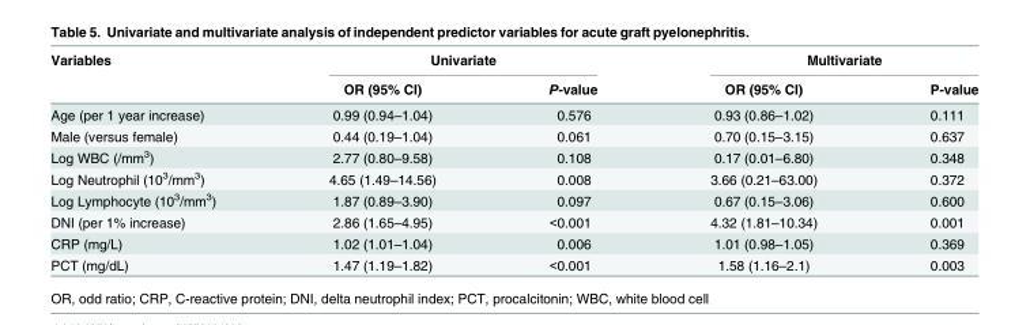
<table><thead><tr><td rowspan="2">Variables</td><td colspan="2">Univariate</td><td colspan="2">Multivariate</td></tr><tr><td>OR (95% CI)</td><td>P-value</td><td>OR (95% CI)</td><td>P-value</td></tr></thead><tbody><tr><td>Age (per 1 year increase)</td><td>0.99 (0.94–1.04)</td><td>0.576</td><td>0.93 (0.86–1.02)</td><td>0.111</td></tr><tr><td>Male (versus female)</td><td>0.44 (0.19–1.04)</td><td>0.061</td><td>0.70 (0.15–3.15)</td><td>0.637</td></tr><tr><td>Log WBC (/mm<sup>3</sup>)</td><td>2.77 (0.80–9.58)</td><td>0.108</td><td>0.17 (0.01–6.80)</td><td>0.348</td></tr><tr><td>Log Neutrophil (10<sup>3</sup>/mm<sup>3</sup>)</td><td>4.65 (1.49–14.56)</td><td>0.008</td><td>3.66 (0.21–63.00)</td><td>0.372</td></tr><tr><td>Log Lymphocyte (10<sup>3</sup>/mm<sup>3</sup>)</td><td>1.87 (0.89–3.90)</td><td>0.097</td><td>0.67 (0.15–3.06)</td><td>0.600</td></tr><tr><td>DNI (per 1% increase)</td><td>2.86 (1.65–4.95)</td><td>&lt;0.001</td><td>4.32 (1.81–10.34)</td><td>0.001</td></tr><tr><td>CRP (mg/L)</td><td>1.02 (1.01–1.04)</td><td>0.006</td><td>1.01 (0.98–1.05)</td><td>0.369</td></tr><tr><td>PCT (mg/dL)</td><td>1.47 (1.19–1.82)</td><td>&lt;0.001</td><td>1.58 (1.16–2.1)</td><td>0.003</td></tr></tbody></table>